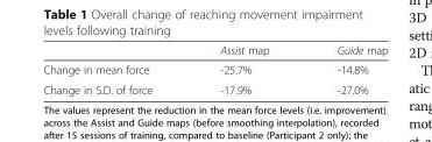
<table><thead><tr><td></td><td>Assist map</td><td>Guide map</td></tr></thead><tbody><tr><td>Change in mean force</td><td>-25.7%</td><td>-14.8%</td></tr><tr><td>Change in S.D. of force</td><td>-17.9%</td><td>-27.0%</td></tr></tbody></table>